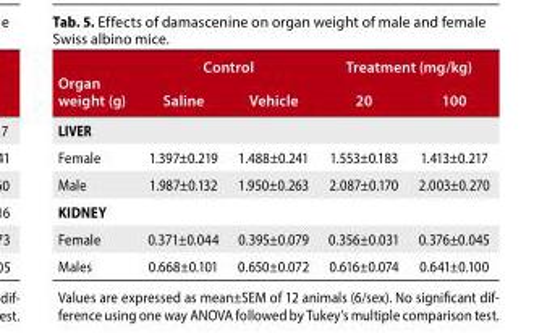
<table><thead><tr><td rowspan="2">Organ weight (g)</td><td colspan="2">Control</td><td colspan="2">Treatment (mg/kg)</td></tr><tr><td>Saline</td><td>Vehicle</td><td>20</td><td>100</td></tr></thead><tbody><tr><td colspan="5">LIVER</td></tr><tr><td>Female</td><td>1.397±0.219</td><td>1.488±0.241</td><td>1.553±0.183</td><td>1.413±0.217</td></tr><tr><td>Male</td><td>1.987±0.132</td><td>1.950±0.263</td><td>2.087±0.170</td><td>2.003±0.270</td></tr><tr><td colspan="5">KIDNEY</td></tr><tr><td>Female</td><td>0.371±0.044</td><td>0.395±0.079</td><td>0.356±0.031</td><td>0.376±0.045</td></tr><tr><td>Males</td><td>0.668±0.101</td><td>0.650±0.072</td><td>0.616±0.074</td><td>0.641±0.100</td></tr></tbody></table>